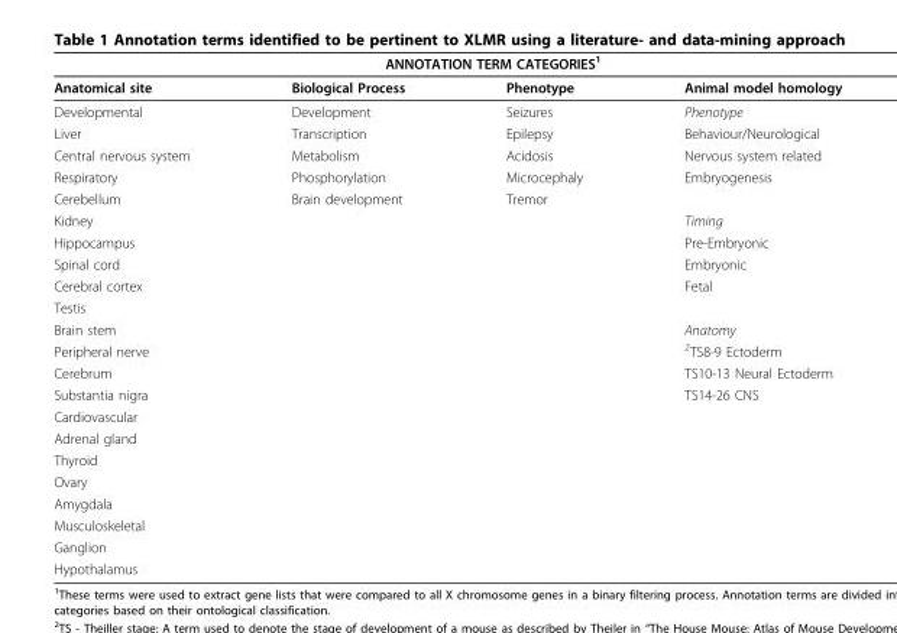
<table><thead><tr><td colspan="4">ANNOTATION TERM CATEGORIES<sup>1</sup></td></tr><tr><td>Anatomical site</td><td>Biological Process</td><td>Phenotype</td><td>Animal model homology</td></tr></thead><tbody><tr><td>Developmental</td><td>Development</td><td>Seizures</td><td>Phenotype</td></tr><tr><td>Liver</td><td>Transcription</td><td>Epilepsy</td><td>Behaviour/Neurological</td></tr><tr><td>Central nervous system</td><td>Metabolism</td><td>Acidosis</td><td>Nervous system related</td></tr><tr><td>Respiratory</td><td>Phosphorylation</td><td>Microcephaly</td><td>Embryogenesis</td></tr><tr><td>Cerebellum</td><td>Brain development</td><td>Tremor</td><td></td></tr><tr><td>Kidney</td><td></td><td></td><td>Timing</td></tr><tr><td>Hippocampus</td><td></td><td></td><td>Pre-Embryonic</td></tr><tr><td>Spinal cord</td><td></td><td></td><td>Embryonic</td></tr><tr><td>Cerebral cortex</td><td></td><td></td><td>Fetal</td></tr><tr><td colspan="4">Testis</td></tr><tr><td>Brain stem</td><td></td><td></td><td>Anatomy</td></tr><tr><td>Peripheral nerve</td><td></td><td></td><td><sup>2</sup>TS8-9 Ectoderm</td></tr><tr><td>Cerebrum</td><td></td><td></td><td>TS10-13 Neural Ectoderm</td></tr><tr><td>Substantia nigra</td><td></td><td></td><td>TS14-26 CNS</td></tr><tr><td colspan="4">Cardiovascular</td></tr><tr><td colspan="4">Adrenal gland</td></tr><tr><td colspan="4">Thyroid</td></tr><tr><td colspan="4">Ovary</td></tr><tr><td colspan="4">Amygdala</td></tr><tr><td colspan="4">Musculoskeletal</td></tr><tr><td colspan="4">Ganglion</td></tr><tr><td>Hypothalamus</td><td></td><td></td><td></td></tr></tbody></table>